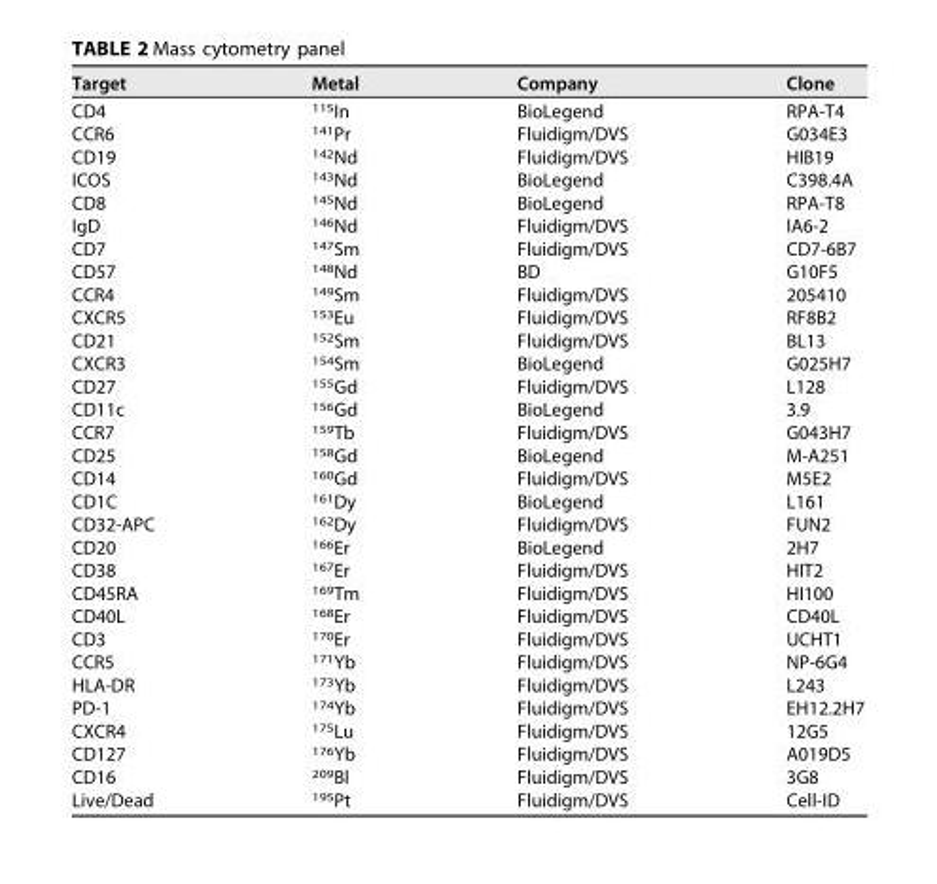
<table><thead><tr><td>Target</td><td>Metal</td><td>Company</td><td>Clone</td></tr></thead><tbody><tr><td>CD4</td><td><sup>115</sup>In</td><td>BioLegend</td><td>RPA-T4</td></tr><tr><td>CCR6</td><td><sup>141</sup>Pr</td><td>Fluidigm/DVS</td><td>G034E3</td></tr><tr><td>CD19</td><td><sup>142</sup>Nd</td><td>Fluidigm/DVS</td><td>HIB19</td></tr><tr><td>ICOS</td><td><sup>143</sup>Nd</td><td>BioLegend</td><td>C398.4A</td></tr><tr><td>CD8</td><td><sup>145</sup>Nd</td><td>BioLegend</td><td>RPA-T8</td></tr><tr><td>IgD</td><td><sup>146</sup>Nd</td><td>Fluidigm/DVS</td><td>IA6-2</td></tr><tr><td>CD7</td><td><sup>147</sup>Sm</td><td>Fluidigm/DVS</td><td>CD7-6B7</td></tr><tr><td>CD57</td><td><sup>148</sup>Nd</td><td>BD</td><td>G10F5</td></tr><tr><td>CCR4</td><td><sup>149</sup>Sm</td><td>Fluidigm/DVS</td><td>205410</td></tr><tr><td>CXCR5</td><td><sup>153</sup>Eu</td><td>Fluidigm/DVS</td><td>RF8B2</td></tr><tr><td>CD21</td><td><sup>152</sup>Sm</td><td>Fluidigm/DVS</td><td>BL13</td></tr><tr><td>CXCR3</td><td><sup>154</sup>Sm</td><td>BioLegend</td><td>G025H7</td></tr><tr><td>CD27</td><td><sup>155</sup>Gd</td><td>Fluidigm/DVS</td><td>L128</td></tr><tr><td>CD11c</td><td><sup>156</sup>Gd</td><td>BioLegend</td><td>3.9</td></tr><tr><td>CCR7</td><td><sup>159</sup>Tb</td><td>Fluidigm/DVS</td><td>G043H7</td></tr><tr><td>CD25</td><td><sup>158</sup>Gd</td><td>BioLegend</td><td>M-A251</td></tr><tr><td>CD14</td><td><sup>160</sup>Gd</td><td>Fluidigm/DVS</td><td>M5E2</td></tr><tr><td>CD1C</td><td><sup>161</sup>Dy</td><td>BioLegend</td><td>L161</td></tr><tr><td>CD32-APC</td><td><sup>162</sup>Dy</td><td>Fluidigm/DVS</td><td>FUN2</td></tr><tr><td>CD20</td><td><sup>166</sup>Er</td><td>BioLegend</td><td>2H7</td></tr><tr><td>CD38</td><td><sup>167</sup>Er</td><td>Fluidigm/DVS</td><td>HIT2</td></tr><tr><td>CD45RA</td><td><sup>169</sup>Tm</td><td>Fluidigm/DVS</td><td>HI100</td></tr><tr><td>CD40L</td><td><sup>168</sup>Er</td><td>Fluidigm/DVS</td><td>CD40L</td></tr><tr><td>CD3</td><td><sup>170</sup>Er</td><td>Fluidigm/DVS</td><td>UCHT1</td></tr><tr><td>CCR5</td><td><sup>171</sup>Yb</td><td>Fluidigm/DVS</td><td>NP-6G4</td></tr><tr><td>HLA-DR</td><td><sup>173</sup>Yb</td><td>Fluidigm/DVS</td><td>L243</td></tr><tr><td>PD-1</td><td><sup>174</sup>Yb</td><td>Fluidigm/DVS</td><td>EH12.2H7</td></tr><tr><td>CXCR4</td><td><sup>175</sup>Lu</td><td>Fluidigm/DVS</td><td>12G5</td></tr><tr><td>CD127</td><td><sup>176</sup>Yb</td><td>Fluidigm/DVS</td><td>A019D5</td></tr><tr><td>CD16</td><td><sup>209</sup>Bl</td><td>Fluidigm/DVS</td><td>3G8</td></tr><tr><td>Live/Dead</td><td><sup>195</sup>Pt</td><td>Fluidigm/DVS</td><td>Cell-ID</td></tr></tbody></table>